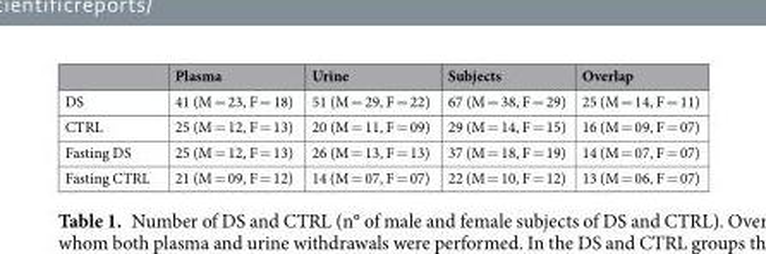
<table><thead><tr><td></td><td>Plasma</td><td>Urine</td><td>Subjects</td><td>Overlap</td></tr></thead><tbody><tr><td>DS</td><td>41 (M = 23, F = 18)</td><td>51 (M = 29, F = 22)</td><td>67 (M = 38, F = 29)</td><td>25 (M = 14, F = 11)</td></tr><tr><td>CTRL</td><td>25 (M = 12, F = 13)</td><td>20 (M = 11, F = 09)</td><td>29 (M = 14, F = 15)</td><td>16 (M = 09, F = 07)</td></tr><tr><td>Fasting DS</td><td>25 (M = 12, F = 13)</td><td>26 (M = 13, F = 13)</td><td>37 (M = 18, F = 19)</td><td>14 (M = 07, F = 07)</td></tr><tr><td>Fasting CTRL</td><td>21 (M = 09, F = 12)</td><td>14 (M = 07, F = 07)</td><td>22 (M = 10, F = 12)</td><td>13 (M = 06, F = 07)</td></tr></tbody></table>